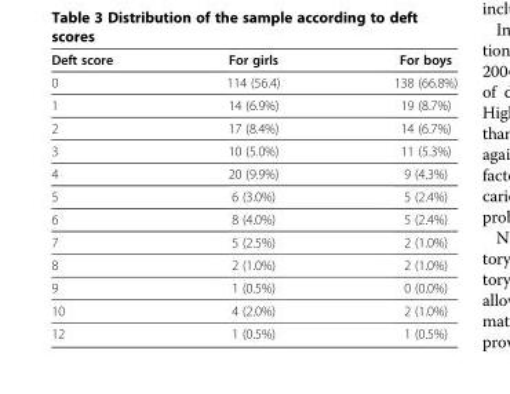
<table><thead><tr><td>Deft score</td><td>For girls</td><td>For boys</td></tr></thead><tbody><tr><td>0</td><td>114 (56.4)</td><td>138 (66.8%)</td></tr><tr><td>1</td><td>14 (6.9%)</td><td>19 (8.7%)</td></tr><tr><td>2</td><td>17 (8.4%)</td><td>14 (6.7%)</td></tr><tr><td>3</td><td>10 (5.0%)</td><td>11 (5.3%)</td></tr><tr><td>4</td><td>20 (9.9%)</td><td>9 (4.3%)</td></tr><tr><td>5</td><td>6 (3.0%)</td><td>5 (2.4%)</td></tr><tr><td>6</td><td>8 (4.0%)</td><td>5 (2.4%)</td></tr><tr><td>7</td><td>5 (2.5%)</td><td>2 (1.0%)</td></tr><tr><td>8</td><td>2 (1.0%)</td><td>2 (1.0%)</td></tr><tr><td>9</td><td>1 (0.5%)</td><td>0 (0.0%)</td></tr><tr><td>10</td><td>4 (2.0%)</td><td>2 (1.0%)</td></tr><tr><td>12</td><td>1 (0.5%)</td><td>1 (0.5%)</td></tr></tbody></table>